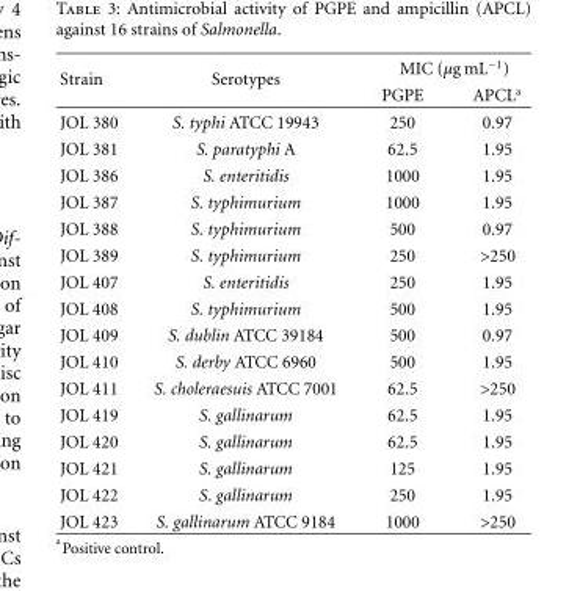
<table><thead><tr><td rowspan="2">Strain</td><td rowspan="2">Serotypes</td><td colspan="2">MIC (µg mL<sup>−1</sup>)</td></tr><tr><td>PGPE</td><td>APCL<sup>a</sup></td></tr></thead><tbody><tr><td>JOL 380</td><td>S. typhi ATCC 19943</td><td>250</td><td>0.97</td></tr><tr><td>JOL 381</td><td>S. paratyphi A</td><td>62.5</td><td>1.95</td></tr><tr><td>JOL 386</td><td>S. enteritidis</td><td>1000</td><td>1.95</td></tr><tr><td>JOL 387</td><td>S. typhimurium</td><td>1000</td><td>1.95</td></tr><tr><td>JOL 388</td><td>S. typhimurium</td><td>500</td><td>0.97</td></tr><tr><td>JOL 389</td><td>S. typhimurium</td><td>250</td><td>&gt;250</td></tr><tr><td>JOL 407</td><td>S. enteritidis</td><td>250</td><td>1.95</td></tr><tr><td>JOL 408</td><td>S. typhimurium</td><td>500</td><td>1.95</td></tr><tr><td>JOL 409</td><td>S. dublin ATCC 39184</td><td>500</td><td>0.97</td></tr><tr><td>JOL 410</td><td>S. derby ATCC 6960</td><td>500</td><td>1.95</td></tr><tr><td>JOL 411</td><td>S. choleraesuis ATCC 7001</td><td>62.5</td><td>&gt;250</td></tr><tr><td>JOL 419</td><td>S. gallinarum</td><td>62.5</td><td>1.95</td></tr><tr><td>JOL 420</td><td>S. gallinarum</td><td>62.5</td><td>1.95</td></tr><tr><td>JOL 421</td><td>S. gallinarum</td><td>125</td><td>1.95</td></tr><tr><td>JOL 422</td><td>S. gallinarum</td><td>250</td><td>1.95</td></tr><tr><td>JOL 423</td><td>S. gallinarum ATCC 9184</td><td>1000</td><td>&gt;250</td></tr></tbody></table>